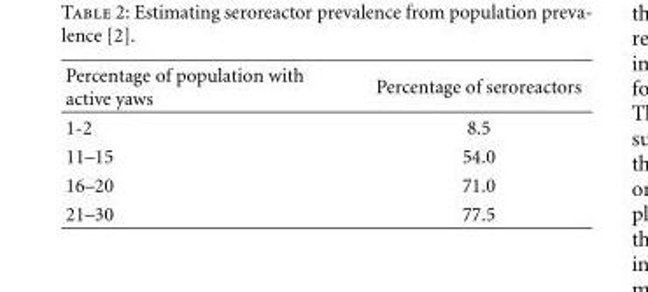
<table><thead><tr><td>Percentage of population with active yaws</td><td>Percentage of seroreactors</td></tr></thead><tbody><tr><td>1-2</td><td>8.5</td></tr><tr><td>11–15</td><td>54.0</td></tr><tr><td>16–20</td><td>71.0</td></tr><tr><td>21–30</td><td>77.5</td></tr></tbody></table>